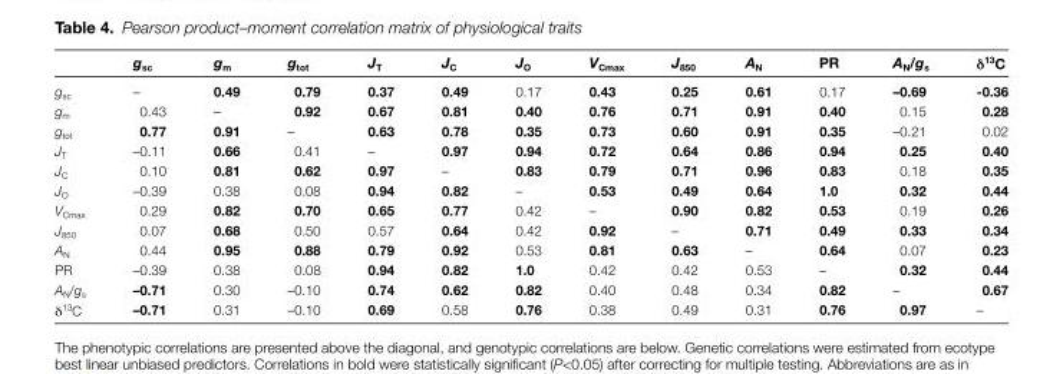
<table><thead><tr><td></td><td>g<sub>sc</sub></td><td>g<sub>m</sub></td><td>g<sub>tot</sub></td><td>J<sub>T</sub></td><td>J<sub>C</sub></td><td>J<sub>O</sub></td><td>V<sub>Cmax</sub></td><td>J<sub>850</sub></td><td>A<sub>N</sub></td><td>PR</td><td>A<sub>N</sub>/g<sub>s</sub></td><td>δ<sup>13</sup>C</td></tr></thead><tbody><tr><td>g<sub>sc</sub></td><td>–</td><td>0.49</td><td>0.79</td><td>0.37</td><td>0.49</td><td>0.17</td><td>0.43</td><td>0.25</td><td>0.61</td><td>0.17</td><td>–0.69</td><td>-0.36</td></tr><tr><td>g<sub>m</sub></td><td>0.43</td><td>–</td><td>0.92</td><td>0.67</td><td>0.81</td><td>0.40</td><td>0.76</td><td>0.71</td><td>0.91</td><td>0.40</td><td>0.15</td><td>0.28</td></tr><tr><td>g<sub>tot</sub></td><td>0.77</td><td>0.91</td><td>–</td><td>0.63</td><td>0.78</td><td>0.35</td><td>0.73</td><td>0.60</td><td>0.91</td><td>0.35</td><td>–0.21</td><td>0.02</td></tr><tr><td>J<sub>T</sub></td><td>–0.11</td><td>0.66</td><td>0.41</td><td>–</td><td>0.97</td><td>0.94</td><td>0.72</td><td>0.64</td><td>0.86</td><td>0.94</td><td>0.25</td><td>0.40</td></tr><tr><td>J<sub>C</sub></td><td>0.10</td><td>0.81</td><td>0.62</td><td>0.97</td><td>–</td><td>0.83</td><td>0.79</td><td>0.71</td><td>0.96</td><td>0.83</td><td>0.18</td><td>0.35</td></tr><tr><td>J<sub>O</sub></td><td>–0.39</td><td>0.38</td><td>0.08</td><td>0.94</td><td>0.82</td><td>–</td><td>0.53</td><td>0.49</td><td>0.64</td><td>1.0</td><td>0.32</td><td>0.44</td></tr><tr><td>V<sub>Cmax</sub></td><td>0.29</td><td>0.82</td><td>0.70</td><td>0.65</td><td>0.77</td><td>0.42</td><td>–</td><td>0.90</td><td>0.82</td><td>0.53</td><td>0.19</td><td>0.26</td></tr><tr><td>J<sub>850</sub></td><td>0.07</td><td>0.68</td><td>0.50</td><td>0.57</td><td>0.64</td><td>0.42</td><td>0.92</td><td>–</td><td>0.71</td><td>0.49</td><td>0.33</td><td>0.34</td></tr><tr><td>A<sub>N</sub></td><td>0.44</td><td>0.95</td><td>0.88</td><td>0.79</td><td>0.92</td><td>0.53</td><td>0.81</td><td>0.63</td><td>–</td><td>0.64</td><td>0.07</td><td>0.23</td></tr><tr><td>PR</td><td>–0.39</td><td>0.38</td><td>0.08</td><td>0.94</td><td>0.82</td><td>1.0</td><td>0.42</td><td>0.42</td><td>0.53</td><td>–</td><td>0.32</td><td>0.44</td></tr><tr><td>A<sub>N</sub>/g<sub>s</sub></td><td>–0.71</td><td>0.30</td><td>–0.10</td><td>0.74</td><td>0.62</td><td>0.82</td><td>0.40</td><td>0.48</td><td>0.34</td><td>0.82</td><td>–</td><td>0.67</td></tr><tr><td>δ<sup>13</sup>C</td><td>–0.71</td><td>0.31</td><td>–0.10</td><td>0.69</td><td>0.58</td><td>0.76</td><td>0.38</td><td>0.49</td><td>0.31</td><td>0.76</td><td>0.97</td><td>–</td></tr></tbody></table>